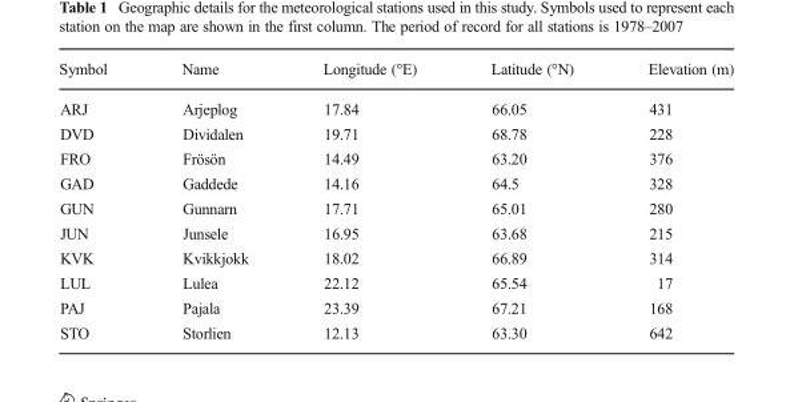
<table><thead><tr><td>Symbol</td><td>Name</td><td>Longitude (°E)</td><td>Latitude (°N)</td><td>Elevation (m)</td></tr></thead><tbody><tr><td>ARJ</td><td>Arjeplog</td><td>17.84</td><td>66.05</td><td>431</td></tr><tr><td>DVD</td><td>Dividalen</td><td>19.71</td><td>68.78</td><td>228</td></tr><tr><td>FRO</td><td>Frösön</td><td>14.49</td><td>63.20</td><td>376</td></tr><tr><td>GAD</td><td>Gaddede</td><td>14.16</td><td>64.5</td><td>328</td></tr><tr><td>GUN</td><td>Gunnarn</td><td>17.71</td><td>65.01</td><td>280</td></tr><tr><td>JUN</td><td>Junsele</td><td>16.95</td><td>63.68</td><td>215</td></tr><tr><td>KVK</td><td>Kvikkjokk</td><td>18.02</td><td>66.89</td><td>314</td></tr><tr><td>LUL</td><td>Lulea</td><td>22.12</td><td>65.54</td><td>17</td></tr><tr><td>PAJ</td><td>Pajala</td><td>23.39</td><td>67.21</td><td>168</td></tr><tr><td>STO</td><td>Storlien</td><td>12.13</td><td>63.30</td><td>642</td></tr></tbody></table>